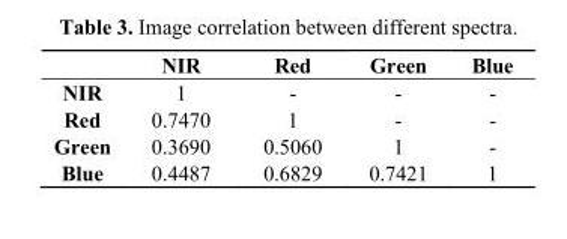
<table><thead><tr><td></td><td>NIR</td><td>Red</td><td>Green</td><td>Blue</td></tr></thead><tbody><tr><td>NIR</td><td>1</td><td>-</td><td>-</td><td>-</td></tr><tr><td>Red</td><td>0.7470</td><td>1</td><td>-</td><td>-</td></tr><tr><td>Green</td><td>0.3690</td><td>0.5060</td><td>1</td><td>-</td></tr><tr><td>Blue</td><td>0.4487</td><td>0.6829</td><td>0.7421</td><td>1</td></tr></tbody></table>